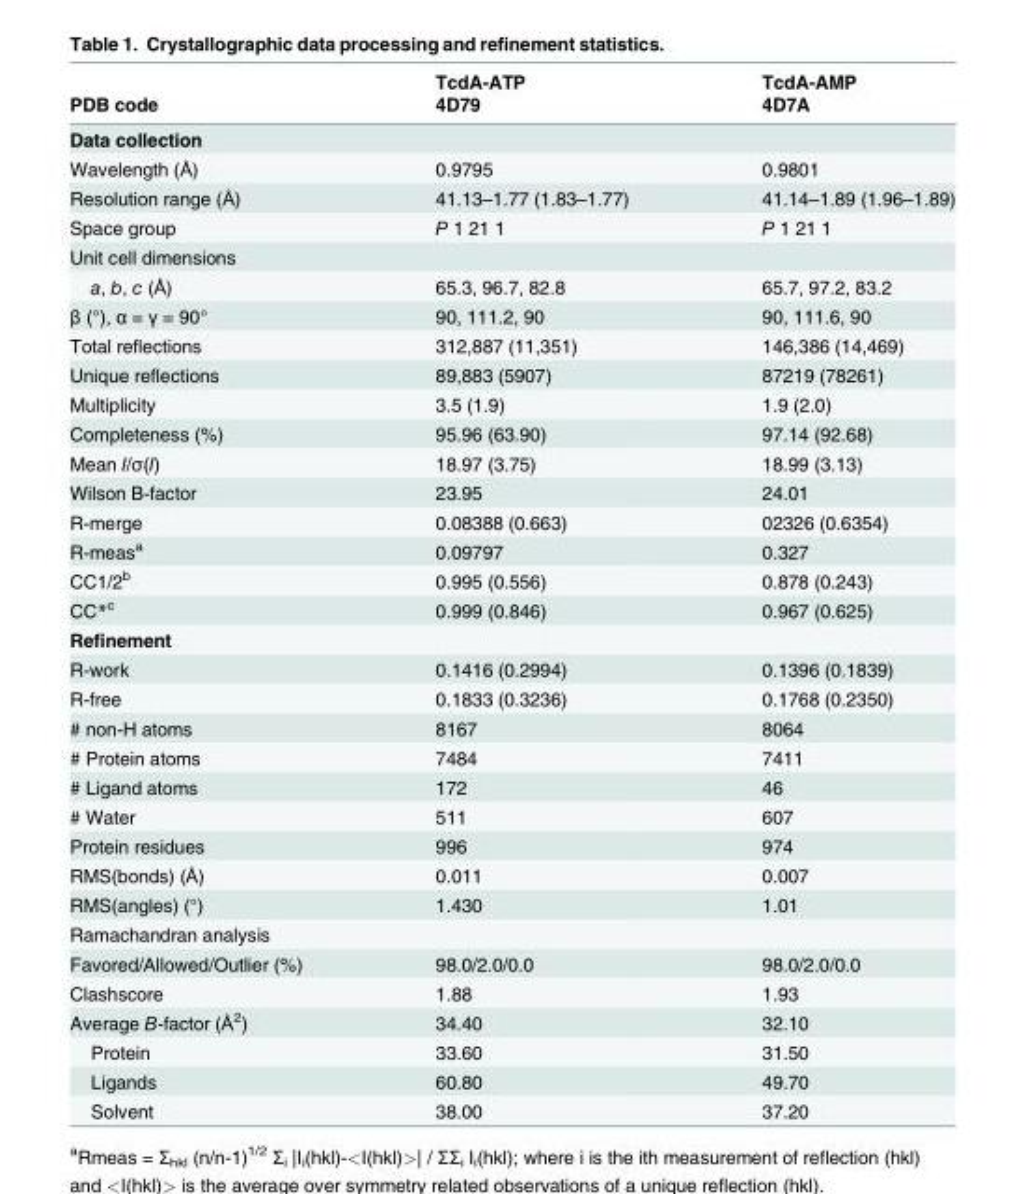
<table><thead><tr><td rowspan="2">PDB code</td><td rowspan="2">TcdA-ATP 4D79</td><td rowspan="2">TcdA-AMP 4D7A</td></tr><tr></tr></thead><tbody><tr><td colspan="3">Data collection</td></tr><tr><td>Wavelength (Å)</td><td>0.9795</td><td>0.9801</td></tr><tr><td>Resolution range (Å)</td><td>41.13–1.77 (1.83–1.77)</td><td>41.14–1.89 (1.96–1.89)</td></tr><tr><td>Space group</td><td>P 1 21 1</td><td>P 1 21 1</td></tr><tr><td colspan="3">Unit cell dimensions</td></tr><tr><td>a, b, c (Å)</td><td>65.3, 96.7, 82.8</td><td>65.7, 97.2, 83.2</td></tr><tr><td>β (°), α = γ = 90°</td><td>90, 111.2, 90</td><td>90, 111.6, 90</td></tr><tr><td>Total reflections</td><td>312,887 (11,351)</td><td>146,386 (14,469)</td></tr><tr><td>Unique reflections</td><td>89,883 (5907)</td><td>87219 (78261)</td></tr><tr><td>Multiplicity</td><td>3.5 (1.9)</td><td>1.9 (2.0)</td></tr><tr><td>Completeness (%)</td><td>95.96 (63.90)</td><td>97.14 (92.68)</td></tr><tr><td>Mean I/σ(I)</td><td>18.97 (3.75)</td><td>18.99 (3.13)</td></tr><tr><td>Wilson B-factor</td><td>23.95</td><td>24.01</td></tr><tr><td>R-merge</td><td>0.08388 (0.663)</td><td>02326 (0.6354)</td></tr><tr><td>R-meas<sup>a</sup></td><td>0.09797</td><td>0.327</td></tr><tr><td>CC1/2<sup>b</sup></td><td>0.995 (0.556)</td><td>0.878 (0.243)</td></tr><tr><td>CC*<sup>c</sup></td><td>0.999 (0.846)</td><td>0.967 (0.625)</td></tr><tr><td colspan="3">Refinement</td></tr><tr><td>R-work</td><td>0.1416 (0.2994)</td><td>0.1396 (0.1839)</td></tr><tr><td>R-free</td><td>0.1833 (0.3236)</td><td>0.1768 (0.2350)</td></tr><tr><td># non-H atoms</td><td>8167</td><td>8064</td></tr><tr><td># Protein atoms</td><td>7484</td><td>7411</td></tr><tr><td># Ligand atoms</td><td>172</td><td>46</td></tr><tr><td># Water</td><td>511</td><td>607</td></tr><tr><td>Protein residues</td><td>996</td><td>974</td></tr><tr><td>RMS(bonds) (Å)</td><td>0.011</td><td>0.007</td></tr><tr><td>RMS(angles) (°)</td><td>1.430</td><td>1.01</td></tr><tr><td colspan="3">Ramachandran analysis</td></tr><tr><td>Favored/Allowed/Outlier (%)</td><td>98.0/2.0/0.0</td><td>98.0/2.0/0.0</td></tr><tr><td>Clashscore</td><td>1.88</td><td>1.93</td></tr><tr><td>Average B-factor (Å<sup>2</sup>)</td><td>34.40</td><td>32.10</td></tr><tr><td>Protein</td><td>33.60</td><td>31.50</td></tr><tr><td>Ligands</td><td>60.80</td><td>49.70</td></tr><tr><td>Solvent</td><td>38.00</td><td>37.20</td></tr></tbody></table>